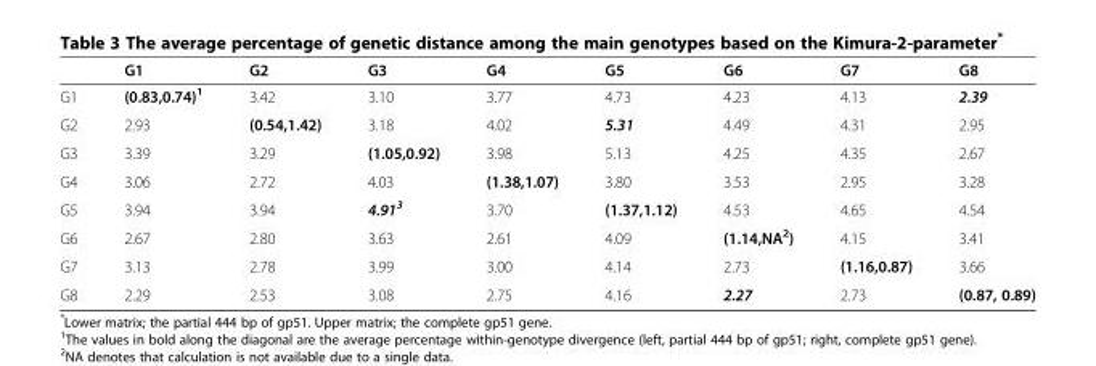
<table><thead><tr><td></td><td>G1</td><td>G2</td><td>G3</td><td>G4</td><td>G5</td><td>G6</td><td>G7</td><td>G8</td></tr></thead><tbody><tr><td>G1</td><td>(0.83,0.74)<sup>1</sup></td><td>3.42</td><td>3.10</td><td>3.77</td><td>4.73</td><td>4.23</td><td>4.13</td><td>2.39</td></tr><tr><td>G2</td><td>2.93</td><td>(0.54,1.42)</td><td>3.18</td><td>4.02</td><td>5.31</td><td>4.49</td><td>4.31</td><td>2.95</td></tr><tr><td>G3</td><td>3.39</td><td>3.29</td><td>(1.05,0.92)</td><td>3.98</td><td>5.13</td><td>4.25</td><td>4.35</td><td>2.67</td></tr><tr><td>G4</td><td>3.06</td><td>2.72</td><td>4.03</td><td>(1.38,1.07)</td><td>3.80</td><td>3.53</td><td>2.95</td><td>3.28</td></tr><tr><td>G5</td><td>3.94</td><td>3.94</td><td>4.91<sup>3</sup></td><td>3.70</td><td>(1.37,1.12)</td><td>4.53</td><td>4.65</td><td>4.54</td></tr><tr><td>G6</td><td>2.67</td><td>2.80</td><td>3.63</td><td>2.61</td><td>4.09</td><td>(1.14,NA<sup>2</sup>)</td><td>4.15</td><td>3.41</td></tr><tr><td>G7</td><td>3.13</td><td>2.78</td><td>3.99</td><td>3.00</td><td>4.14</td><td>2.73</td><td>(1.16,0.87)</td><td>3.66</td></tr><tr><td>G8</td><td>2.29</td><td>2.53</td><td>3.08</td><td>2.75</td><td>4.16</td><td>2.27</td><td>2.73</td><td>(0.87, 0.89)</td></tr></tbody></table>